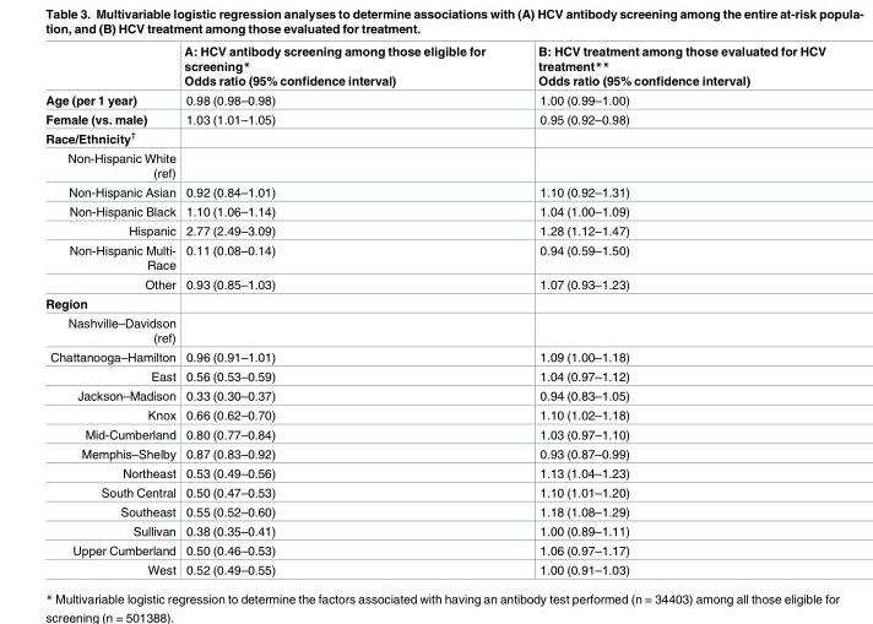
<table><thead><tr><td></td><td>A: HCV antibody screening among those eligible for screening* Odds ratio (95% confidence interval)</td><td>B: HCV treatment among those evaluated for HCV treatment** Odds ratio (95% confidence interval)</td></tr></thead><tbody><tr><td>Age (per 1 year)</td><td>0.98 (0.98–0.98)</td><td>1.00 (0.99–1.00)</td></tr><tr><td>Female (vs. male)</td><td>1.03 (1.01–1.05)</td><td>0.95 (0.92–0.98)</td></tr><tr><td colspan="3">Race/Ethnicity<sup>†</sup></td></tr><tr><td colspan="3">Non-Hispanic White (ref)</td></tr><tr><td>Non-Hispanic Asian</td><td>0.92 (0.84–1.01)</td><td>1.10 (0.92–1.31)</td></tr><tr><td>Non-Hispanic Black</td><td>1.10 (1.06–1.14)</td><td>1.04 (1.00–1.09)</td></tr><tr><td>Hispanic</td><td>2.77 (2.49–3.09)</td><td>1.28 (1.12–1.47)</td></tr><tr><td>Non-Hispanic Multi- Race</td><td>0.11 (0.08–0.14)</td><td>0.94 (0.59–1.50)</td></tr><tr><td>Other</td><td>0.93 (0.85–1.03)</td><td>1.07 (0.93–1.23)</td></tr><tr><td colspan="3">Region</td></tr><tr><td colspan="3">Nashville–Davidson (ref)</td></tr><tr><td>Chattanooga–Hamilton</td><td>0.96 (0.91–1.01)</td><td>1.09 (1.00–1.18)</td></tr><tr><td>East</td><td>0.56 (0.53–0.59)</td><td>1.04 (0.97–1.12)</td></tr><tr><td>Jackson–Madison</td><td>0.33 (0.30–0.37)</td><td>0.94 (0.83–1.05)</td></tr><tr><td>Knox</td><td>0.66 (0.62–0.70)</td><td>1.10 (1.02–1.18)</td></tr><tr><td>Mid-Cumberland</td><td>0.80 (0.77–0.84)</td><td>1.03 (0.97–1.10)</td></tr><tr><td>Memphis–Shelby</td><td>0.87 (0.83–0.92)</td><td>0.93 (0.87–0.99)</td></tr><tr><td>Northeast</td><td>0.53 (0.49–0.56)</td><td>1.13 (1.04–1.23)</td></tr><tr><td>South Central</td><td>0.50 (0.47–0.53)</td><td>1.10 (1.01–1.20)</td></tr><tr><td>Southeast</td><td>0.55 (0.52–0.60)</td><td>1.18 (1.08–1.29)</td></tr><tr><td>Sullivan</td><td>0.38 (0.35–0.41)</td><td>1.00 (0.89–1.11)</td></tr><tr><td>Upper Cumberland</td><td>0.50 (0.46–0.53)</td><td>1.06 (0.97–1.17)</td></tr><tr><td>West</td><td>0.52 (0.49–0.55)</td><td>1.00 (0.91–1.03)</td></tr></tbody></table>